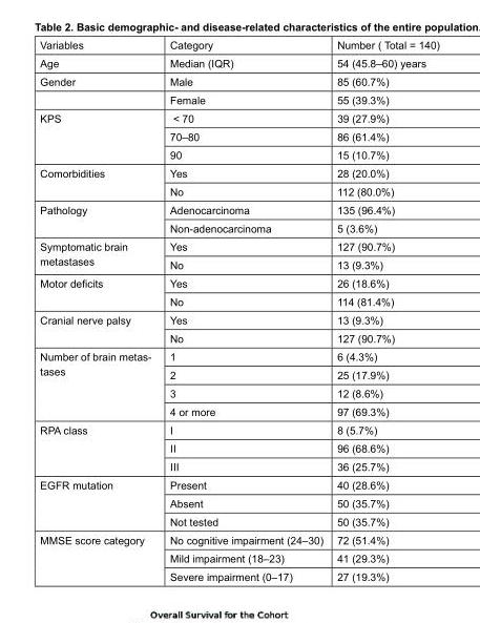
<table><thead><tr><td>Variables</td><td>Category</td><td>Number ( Total = 140)</td></tr></thead><tbody><tr><td>Age</td><td>Median (IQR)</td><td>54 (45.8–60) years</td></tr><tr><td rowspan="2">Gender</td><td>Male</td><td>85 (60.7%)</td></tr><tr><td>Female</td><td>55 (39.3%)</td></tr><tr><td rowspan="3">KPS</td><td>&lt; 70</td><td>39 (27.9%)</td></tr><tr><td>70–80</td><td>86 (61.4%)</td></tr><tr><td>90</td><td>15 (10.7%)</td></tr><tr><td rowspan="2">Comorbidities</td><td>Yes</td><td>28 (20.0%)</td></tr><tr><td>No</td><td>112 (80.0%)</td></tr><tr><td rowspan="2">Pathology</td><td>Adenocarcinoma</td><td>135 (96.4%)</td></tr><tr><td>Non-adenocarcinoma</td><td>5 (3.6%)</td></tr><tr><td rowspan="2">Symptomatic brain metastases</td><td>Yes</td><td>127 (90.7%)</td></tr><tr><td>No</td><td>13 (9.3%)</td></tr><tr><td rowspan="2">Motor deficits</td><td>Yes</td><td>26 (18.6%)</td></tr><tr><td>No</td><td>114 (81.4%)</td></tr><tr><td rowspan="2">Cranial nerve palsy</td><td>Yes</td><td>13 (9.3%)</td></tr><tr><td>No</td><td>127 (90.7%)</td></tr><tr><td rowspan="4">Number of brain metas- tases</td><td>1</td><td>6 (4.3%)</td></tr><tr><td>2</td><td>25 (17.9%)</td></tr><tr><td>3</td><td>12 (8.6%)</td></tr><tr><td>4 or more</td><td>97 (69.3%)</td></tr><tr><td rowspan="3">RPA class</td><td>I</td><td>8 (5.7%)</td></tr><tr><td>II</td><td>96 (68.6%)</td></tr><tr><td>III</td><td>36 (25.7%)</td></tr><tr><td rowspan="3">EGFR mutation</td><td>Present</td><td>40 (28.6%)</td></tr><tr><td>Absent</td><td>50 (35.7%)</td></tr><tr><td>Not tested</td><td>50 (35.7%)</td></tr><tr><td rowspan="3">MMSE score category</td><td>No cognitive impairment (24–30)</td><td>72 (51.4%)</td></tr><tr><td>Mild impairment (18–23)</td><td>41 (29.3%)</td></tr><tr><td>Severe impairment (0–17)</td><td>27 (19.3%)</td></tr></tbody></table>